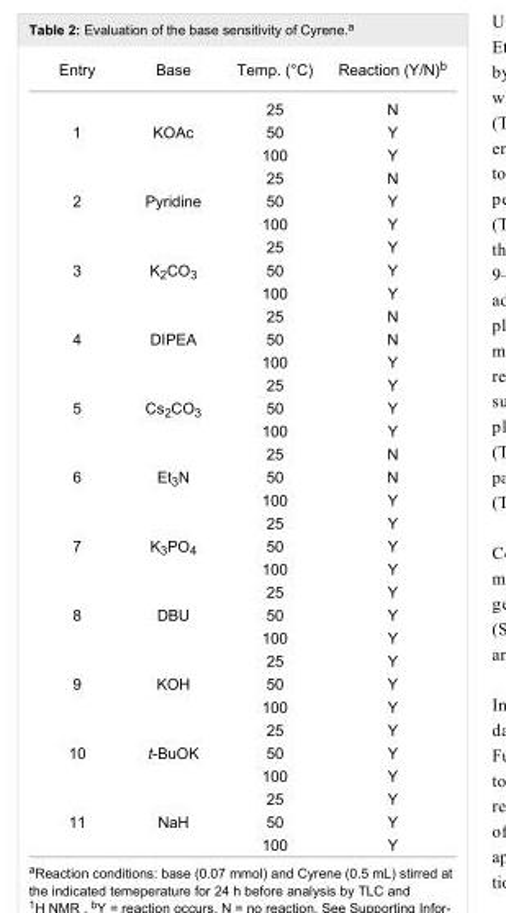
<table><tbody><tr><td>Entry</td><td>Base</td><td>Temp. (°C)</td><td>Reaction (Y/N)<sup>b</sup></td></tr><tr><td rowspan="3">1</td><td rowspan="3">KOAc</td><td>25</td><td>N</td></tr><tr><td>50</td><td>Y</td></tr><tr><td>100</td><td>Y</td></tr><tr><td rowspan="3">2</td><td rowspan="3">Pyridine</td><td>25</td><td>N</td></tr><tr><td>50</td><td>Y</td></tr><tr><td>100</td><td>Y</td></tr><tr><td rowspan="3">3</td><td rowspan="3">K<sub>2</sub>CO<sub>3</sub></td><td>25</td><td>Y</td></tr><tr><td>50</td><td>Y</td></tr><tr><td>100</td><td>Y</td></tr><tr><td rowspan="3">4</td><td rowspan="3">DIPEA</td><td>25</td><td>N</td></tr><tr><td>50</td><td>N</td></tr><tr><td>100</td><td>Y</td></tr><tr><td rowspan="3">5</td><td rowspan="3">Cs<sub>2</sub>CO<sub>3</sub></td><td>25</td><td>Y</td></tr><tr><td>50</td><td>Y</td></tr><tr><td>100</td><td>Y</td></tr><tr><td rowspan="3">6</td><td rowspan="3">Et<sub>3</sub>N</td><td>25</td><td>N</td></tr><tr><td>50</td><td>N</td></tr><tr><td>100</td><td>Y</td></tr><tr><td rowspan="3">7</td><td rowspan="3">K<sub>3</sub>PO<sub>4</sub></td><td>25</td><td>Y</td></tr><tr><td>50</td><td>Y</td></tr><tr><td>100</td><td>Y</td></tr><tr><td rowspan="3">8</td><td rowspan="3">DBU</td><td>25</td><td>Y</td></tr><tr><td>50</td><td>Y</td></tr><tr><td>100</td><td>Y</td></tr><tr><td rowspan="3">9</td><td rowspan="3">KOH</td><td>25</td><td>Y</td></tr><tr><td>50</td><td>Y</td></tr><tr><td>100</td><td>Y</td></tr><tr><td rowspan="3">10</td><td rowspan="3">t-BuOK</td><td>25</td><td>Y</td></tr><tr><td>50</td><td>Y</td></tr><tr><td>100</td><td>Y</td></tr><tr><td rowspan="3">11</td><td rowspan="3">NaH</td><td>25</td><td>Y</td></tr><tr><td>50</td><td>Y</td></tr><tr><td>100</td><td>Y</td></tr></tbody></table>